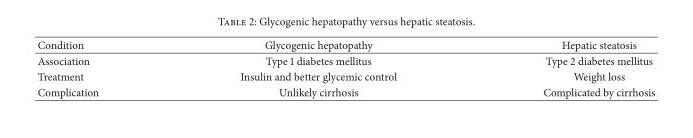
<table><thead><tr><td>Condition</td><td>Glycogenic hepatopathy</td><td>Hepatic steatosis</td></tr></thead><tbody><tr><td>Association</td><td>Type 1 diabetes mellitus</td><td>Type 2 diabetes mellitus</td></tr><tr><td>Treatment</td><td>Insulin and better glycemic control</td><td>Weight loss</td></tr><tr><td>Complication</td><td>Unlikely cirrhosis</td><td>Complicated by cirrhosis</td></tr></tbody></table>